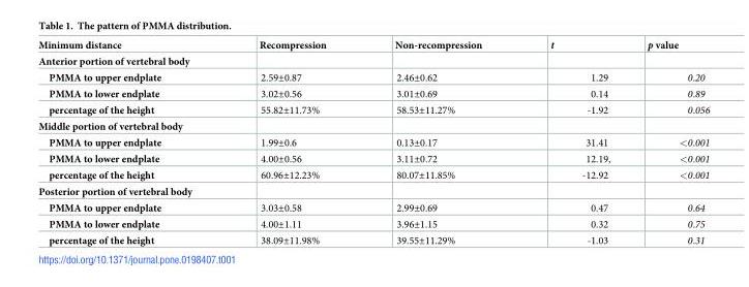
<table><thead><tr><td>Minimum distance</td><td>Recompression</td><td>Non-recompression</td><td>t</td><td>p value</td></tr></thead><tbody><tr><td colspan="5">Anterior portion of vertebral body</td></tr><tr><td>PMMA to upper endplate</td><td>2.59±0.87</td><td>2.46±0.62</td><td>1.29</td><td>0.20</td></tr><tr><td>PMMA to lower endplate</td><td>3.02±0.56</td><td>3.01±0.69</td><td>0.14</td><td>0.89</td></tr><tr><td>percentage of the height</td><td>55.82±11.73%</td><td>58.53±11.27%</td><td>-1.92</td><td>0.056</td></tr><tr><td colspan="5">Middle portion of vertebral body</td></tr><tr><td>PMMA to upper endplate</td><td>1.99±0.6</td><td>0.13±0.17</td><td>31.41</td><td>&lt;0.001</td></tr><tr><td>PMMA to lower endplate</td><td>4.00±0.56</td><td>3.11±0.72</td><td>12.19,</td><td>&lt;0.001</td></tr><tr><td>percentage of the height</td><td>60.96±12.23%</td><td>80.07±11.85%</td><td>-12.92</td><td>&lt;0.001</td></tr><tr><td colspan="5">Posterior portion of vertebral body</td></tr><tr><td>PMMA to upper endplate</td><td>3.03±0.58</td><td>2.99±0.69</td><td>0.47</td><td>0.64</td></tr><tr><td>PMMA to lower endplate</td><td>4.00±1.11</td><td>3.96±1.15</td><td>0.32</td><td>0.75</td></tr><tr><td>percentage of the height</td><td>38.09±11.98%</td><td>39.55±11.29%</td><td>-1.03</td><td>0.31</td></tr></tbody></table>